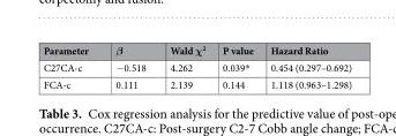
<table><thead><tr><td>Parameter</td><td>β</td><td>Wald χ<sup>2</sup></td><td>P value</td><td>Hazard Ratio</td></tr></thead><tbody><tr><td>C27CA-c</td><td>−0.518</td><td>4.262</td><td>0.039*</td><td>0.454 (0.297–0.692)</td></tr><tr><td>FCA-c</td><td>0.111</td><td>2.139</td><td>0.144</td><td>1.118 (0.963–1.298)</td></tr></tbody></table>